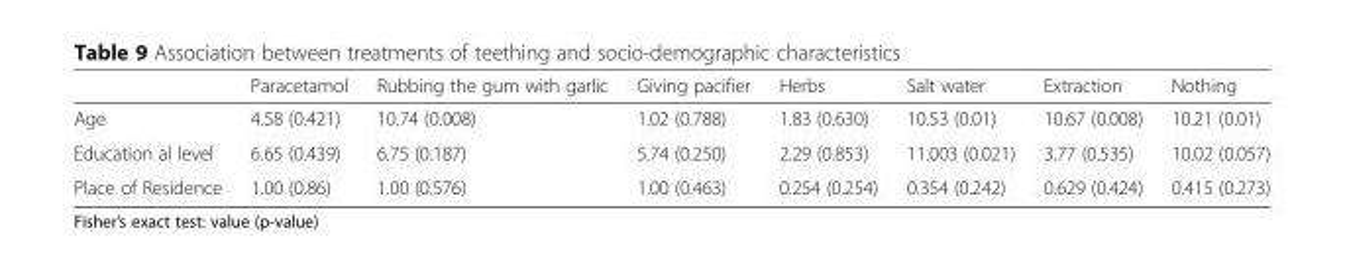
<table><thead><tr><td></td><td>Paracetamol</td><td>Rubbing the gum with garlic</td><td>Giving pacifier</td><td>Herbs</td><td>Salt water</td><td>Extraction</td><td>Nothing</td></tr></thead><tbody><tr><td>Age</td><td>4.58 (0.421)</td><td>10.74 (0.008)</td><td>1.02 (0.788)</td><td>1.83 (0.630)</td><td>10.53 (0.01)</td><td>10.67 (0.008)</td><td>10.21 (0.01)</td></tr><tr><td>Education al level</td><td>6.65 (0.439)</td><td>6.75 (0.187)</td><td>5.74 (0.250)</td><td>2.29 (0.853)</td><td>11.003 (0.021)</td><td>3.77 (0.535)</td><td>10.02 (0.057)</td></tr><tr><td>Place of Residence</td><td>1.00 (0.86)</td><td>1.00 (0.576)</td><td>1.00 (0.463)</td><td>0.254 (0.254)</td><td>0.354 (0.242)</td><td>0.629 (0.424)</td><td>0.415 (0.273)</td></tr></tbody></table>